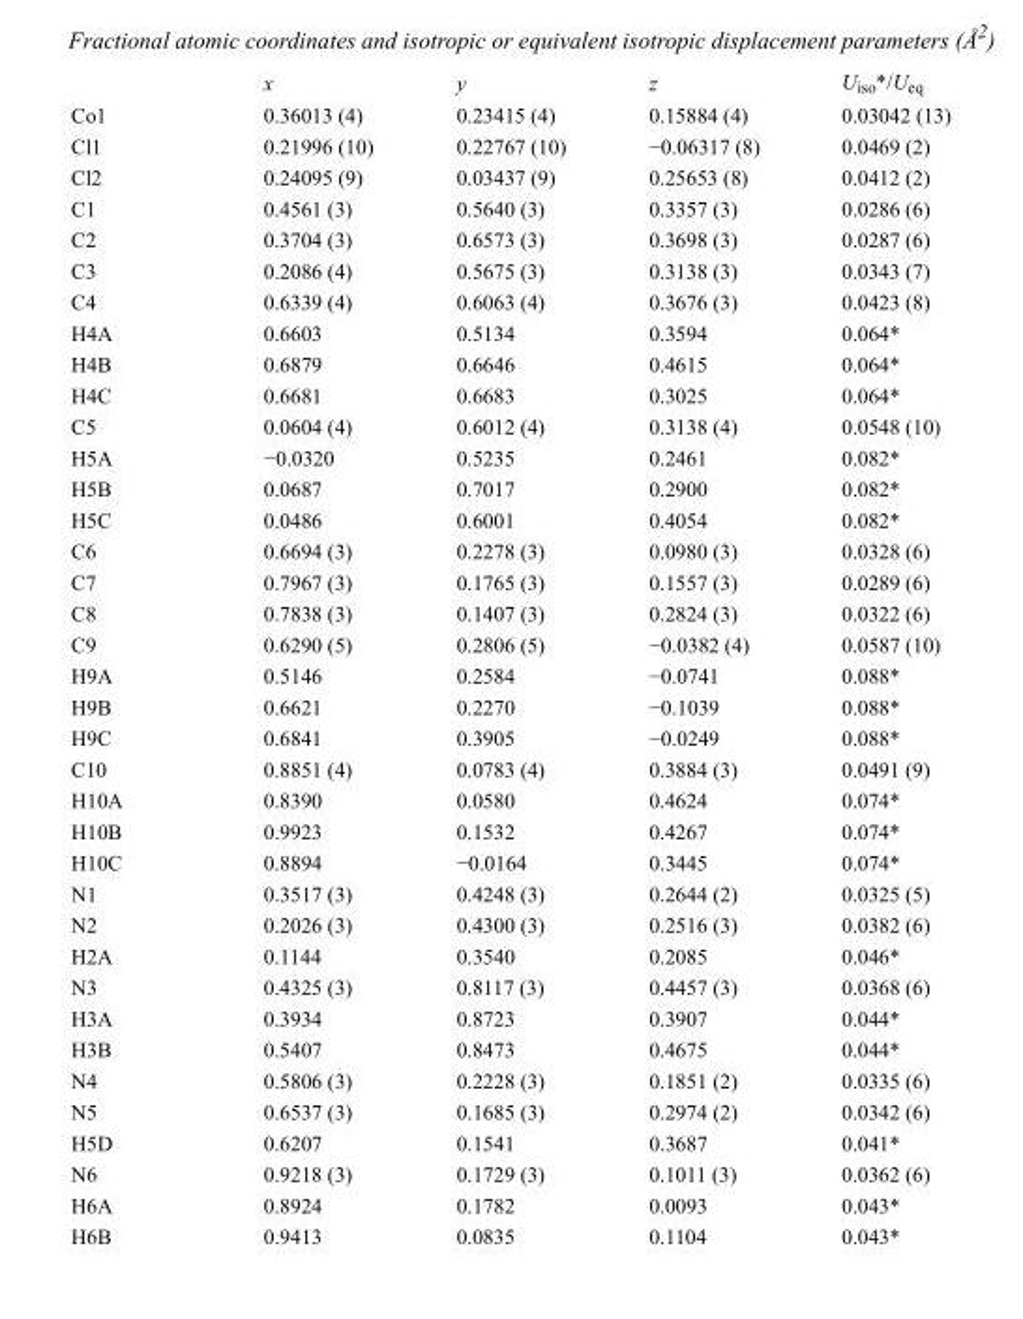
<table><thead><tr><td></td><td>x</td><td>y</td><td>z</td><td>U<sub>iso</sub>*/U<sub>eq</sub></td></tr></thead><tbody><tr><td>Co1</td><td>0.36013 (4)</td><td>0.23415 (4)</td><td>0.15884 (4)</td><td>0.03042 (13)</td></tr><tr><td>Cl1</td><td>0.21996 (10)</td><td>0.22767 (10)</td><td>−0.06317 (8)</td><td>0.0469 (2)</td></tr><tr><td>Cl2</td><td>0.24095 (9)</td><td>0.03437 (9)</td><td>0.25653 (8)</td><td>0.0412 (2)</td></tr><tr><td>C1</td><td>0.4561 (3)</td><td>0.5640 (3)</td><td>0.3357 (3)</td><td>0.0286 (6)</td></tr><tr><td>C2</td><td>0.3704 (3)</td><td>0.6573 (3)</td><td>0.3698 (3)</td><td>0.0287 (6)</td></tr><tr><td>C3</td><td>0.2086 (4)</td><td>0.5675 (3)</td><td>0.3138 (3)</td><td>0.0343 (7)</td></tr><tr><td>C4</td><td>0.6339 (4)</td><td>0.6063 (4)</td><td>0.3676 (3)</td><td>0.0423 (8)</td></tr><tr><td>H4A</td><td>0.6603</td><td>0.5134</td><td>0.3594</td><td>0.064*</td></tr><tr><td>H4B</td><td>0.6879</td><td>0.6646</td><td>0.4615</td><td>0.064*</td></tr><tr><td>H4C</td><td>0.6681</td><td>0.6683</td><td>0.3025</td><td>0.064*</td></tr><tr><td>C5</td><td>0.0604 (4)</td><td>0.6012 (4)</td><td>0.3138 (4)</td><td>0.0548 (10)</td></tr><tr><td>H5A</td><td>−0.0320</td><td>0.5235</td><td>0.2461</td><td>0.082*</td></tr><tr><td>H5B</td><td>0.0687</td><td>0.7017</td><td>0.2900</td><td>0.082*</td></tr><tr><td>H5C</td><td>0.0486</td><td>0.6001</td><td>0.4054</td><td>0.082*</td></tr><tr><td>C6</td><td>0.6694 (3)</td><td>0.2278 (3)</td><td>0.0980 (3)</td><td>0.0328 (6)</td></tr><tr><td>C7</td><td>0.7967 (3)</td><td>0.1765 (3)</td><td>0.1557 (3)</td><td>0.0289 (6)</td></tr><tr><td>C8</td><td>0.7838 (3)</td><td>0.1407 (3)</td><td>0.2824 (3)</td><td>0.0322 (6)</td></tr><tr><td>C9</td><td>0.6290 (5)</td><td>0.2806 (5)</td><td>−0.0382 (4)</td><td>0.0587 (10)</td></tr><tr><td>H9A</td><td>0.5146</td><td>0.2584</td><td>−0.0741</td><td>0.088*</td></tr><tr><td>H9B</td><td>0.6621</td><td>0.2270</td><td>−0.1039</td><td>0.088*</td></tr><tr><td>H9C</td><td>0.6841</td><td>0.3905</td><td>−0.0249</td><td>0.088*</td></tr><tr><td>C10</td><td>0.8851 (4)</td><td>0.0783 (4)</td><td>0.3884 (3)</td><td>0.0491 (9)</td></tr><tr><td>H10A</td><td>0.8390</td><td>0.0580</td><td>0.4624</td><td>0.074*</td></tr><tr><td>H10B</td><td>0.9923</td><td>0.1532</td><td>0.4267</td><td>0.074*</td></tr><tr><td>H10C</td><td>0.8894</td><td>−0.0164</td><td>0.3445</td><td>0.074*</td></tr><tr><td>N1</td><td>0.3517 (3)</td><td>0.4248 (3)</td><td>0.2644 (2)</td><td>0.0325 (5)</td></tr><tr><td>N2</td><td>0.2026 (3)</td><td>0.4300 (3)</td><td>0.2516 (3)</td><td>0.0382 (6)</td></tr><tr><td>H2A</td><td>0.1144</td><td>0.3540</td><td>0.2085</td><td>0.046*</td></tr><tr><td>N3</td><td>0.4325 (3)</td><td>0.8117 (3)</td><td>0.4457 (3)</td><td>0.0368 (6)</td></tr><tr><td>H3A</td><td>0.3934</td><td>0.8723</td><td>0.3907</td><td>0.044*</td></tr><tr><td>H3B</td><td>0.5407</td><td>0.8473</td><td>0.4675</td><td>0.044*</td></tr><tr><td>N4</td><td>0.5806 (3)</td><td>0.2228 (3)</td><td>0.1851 (2)</td><td>0.0335 (6)</td></tr><tr><td>N5</td><td>0.6537 (3)</td><td>0.1685 (3)</td><td>0.2974 (2)</td><td>0.0342 (6)</td></tr><tr><td>H5D</td><td>0.6207</td><td>0.1541</td><td>0.3687</td><td>0.041*</td></tr><tr><td>N6</td><td>0.9218 (3)</td><td>0.1729 (3)</td><td>0.1011 (3)</td><td>0.0362 (6)</td></tr><tr><td>H6A</td><td>0.8924</td><td>0.1782</td><td>0.0093</td><td>0.043*</td></tr><tr><td>H6B</td><td>0.9413</td><td>0.0835</td><td>0.1104</td><td>0.043*</td></tr></tbody></table>